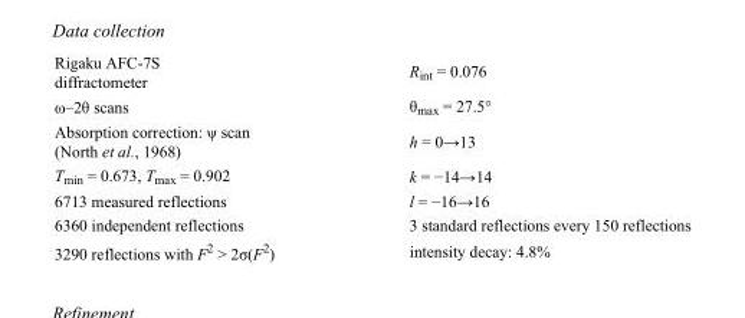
<table><tbody><tr><td>Rigaku AFC-7S diffractometer</td><td>R<sub>int</sub> = 0.076</td></tr><tr><td>ω–2θ scans</td><td>θ<sub>max</sub> = 27.5°</td></tr><tr><td>Absorption correction: ψ scan (North et al., 1968)</td><td>h = 0→13</td></tr><tr><td>T<sub>min</sub> = 0.673, T<sub>max</sub> = 0.902</td><td>k = −14→14</td></tr><tr><td>6713 measured reflections</td><td>l = −16→16</td></tr><tr><td>6360 independent reflections</td><td>3 standard reflections every 150 reflections</td></tr><tr><td>3290 reflections with F<sup>2</sup> &gt; 2σ(F<sup>2</sup>)</td><td>intensity decay: 4.8%</td></tr></tbody></table>